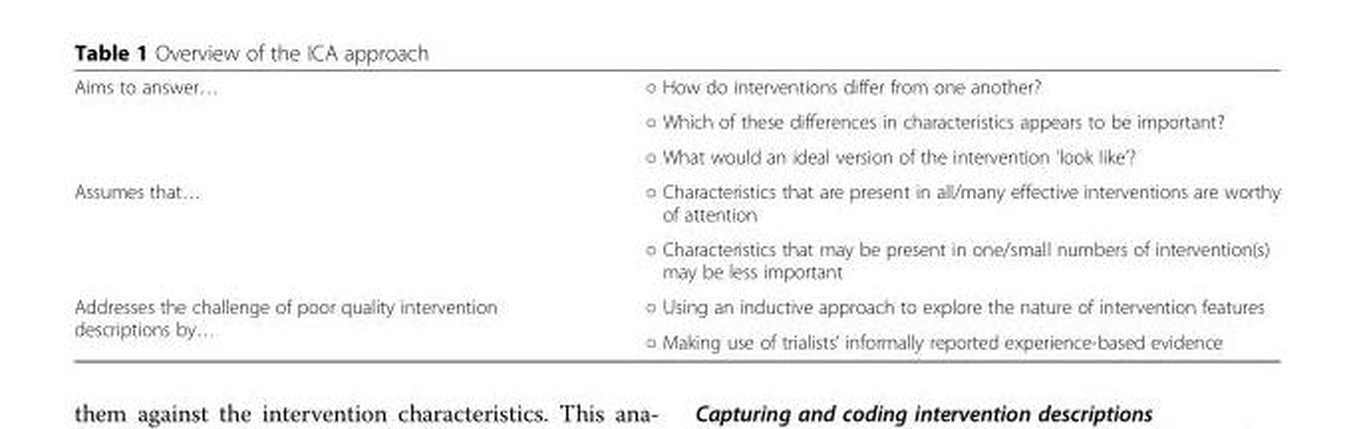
<table><tbody><tr><td rowspan="3">Aims to answer…</td><td>○ How do interventions differ from one another?</td></tr><tr><td>○ Which of these differences in characteristics appears to be important?</td></tr><tr><td>○ What would an ideal version of the intervention ‘look like’?</td></tr><tr><td rowspan="2">Assumes that…</td><td>○ Characteristics that are present in all/many effective interventions are worthy of attention</td></tr><tr><td>○ Characteristics that may be present in one/small numbers of intervention(s) may be less important</td></tr><tr><td rowspan="2">Addresses the challenge of poor quality intervention descriptions by…</td><td>○ Using an inductive approach to explore the nature of intervention features</td></tr><tr><td>○ Making use of trialists’ informally reported experience-based evidence</td></tr></tbody></table>